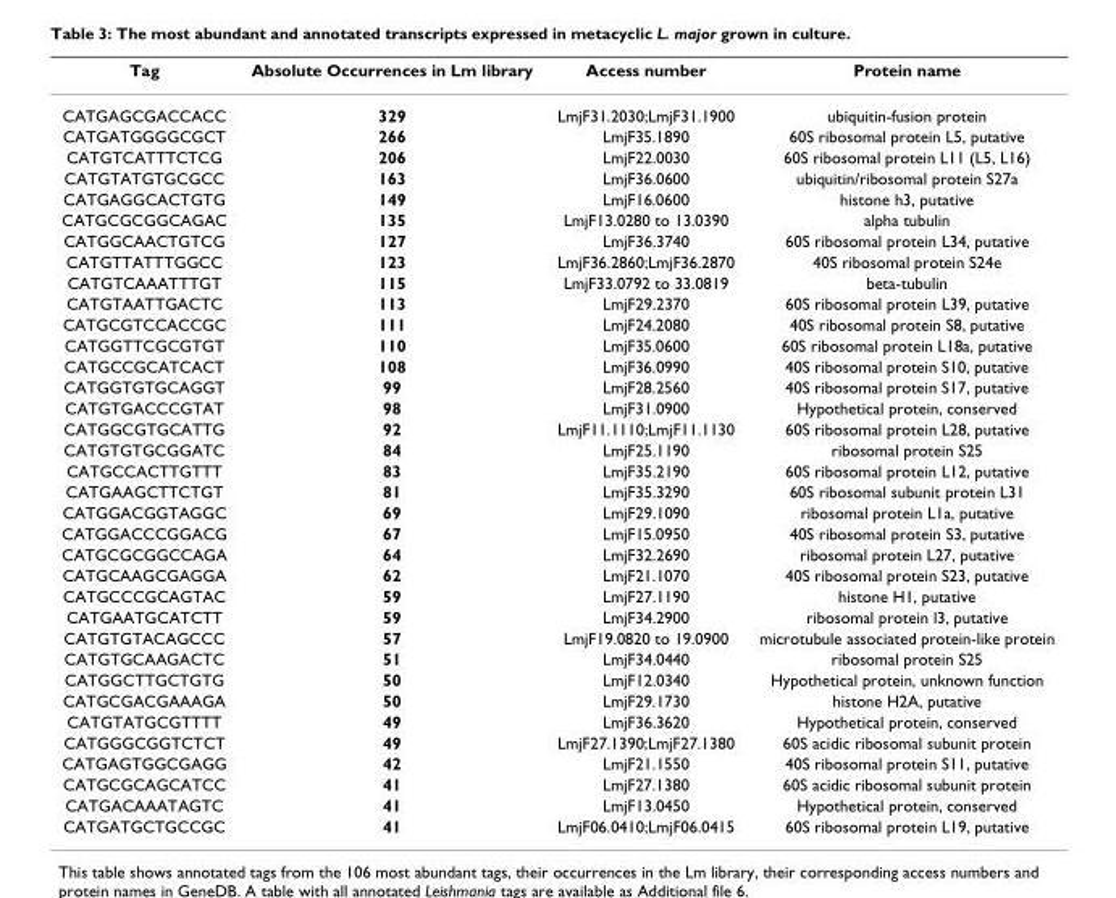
<table><thead><tr><td>Tag</td><td>Absolute Occurrences in Lm library</td><td>Access number</td><td>Protein name</td></tr></thead><tbody><tr><td>CATGAGCGACCACC</td><td>329</td><td>LmjF31.2030;LmjF31.1900</td><td>ubiquitin-fusion protein</td></tr><tr><td>CATGATGGGGCGCT</td><td>266</td><td>LmjF35.1890</td><td>60S ribosomal protein L5, putative</td></tr><tr><td>CATGTCATTTCTCG</td><td>206</td><td>LmjF22.0030</td><td>60S ribosomal protein L11 (L5, L16)</td></tr><tr><td>CATGTATGTGCGCC</td><td>163</td><td>LmjF36.0600</td><td>ubiquitin/ribosomal protein S27a</td></tr><tr><td>CATGAGGCACTGTG</td><td>149</td><td>LmjF16.0600</td><td>histone h3, putative</td></tr><tr><td>CATGCGCGGCAGAC</td><td>135</td><td>LmjF13.0280 to 13.0390</td><td>alpha tubulin</td></tr><tr><td>CATGGCAACTGTCG</td><td>127</td><td>LmjF36.3740</td><td>60S ribosomal protein L34, putative</td></tr><tr><td>CATGTTATTTGGCC</td><td>123</td><td>LmjF36.2860;LmjF36.2870</td><td>40S ribosomal protein S24e</td></tr><tr><td>CATGTCAAATTTGT</td><td>115</td><td>LmjF33.0792 to 33.0819</td><td>beta-tubulin</td></tr><tr><td>CATGTAATTGACTC</td><td>113</td><td>LmjF29.2370</td><td>60S ribosomal protein L39, putative</td></tr><tr><td>CATGCGTCCACCGC</td><td>111</td><td>LmjF24.2080</td><td>40S ribosomal protein S8, putative</td></tr><tr><td>CATGGTTCGCGTGT</td><td>110</td><td>LmjF35.0600</td><td>60S ribosomal protein L18a, putative</td></tr><tr><td>CATGCCGCATCACT</td><td>108</td><td>LmjF36.0990</td><td>40S ribosomal protein S10, putative</td></tr><tr><td>CATGGTGTGCAGGT</td><td>99</td><td>LmjF28.2560</td><td>40S ribosomal protein S17, putative</td></tr><tr><td>CATGTGACCCGTAT</td><td>98</td><td>LmjF31.0900</td><td>Hypothetical protein, conserved</td></tr><tr><td>CATGGCGTGCATTG</td><td>92</td><td>LmjF11.1110;LmjF11.1130</td><td>60S ribosomal protein L28, putative</td></tr><tr><td>CATGTGTGCGGATC</td><td>84</td><td>LmjF25.1190</td><td>ribosomal protein S25</td></tr><tr><td>CATGCCACTTGTTT</td><td>83</td><td>LmjF35.2190</td><td>60S ribosomal protein L12, putative</td></tr><tr><td>CATGAAGCTTCTGT</td><td>81</td><td>LmjF35.3290</td><td>60S ribosomal subunit protein L31</td></tr><tr><td>CATGGACGGTAGGC</td><td>69</td><td>LmjF29.1090</td><td>ribosomal protein L1a, putative</td></tr><tr><td>CATGGACCCGGACG</td><td>67</td><td>LmjF15.0950</td><td>40S ribosomal protein S3, putative</td></tr><tr><td>CATGCGCGGCCAGA</td><td>64</td><td>LmjF32.2690</td><td>ribosomal protein L27, putative</td></tr><tr><td>CATGCAAGCGAGGA</td><td>62</td><td>LmjF21.1070</td><td>40S ribosomal protein S23, putative</td></tr><tr><td>CATGCCCGCAGTAC</td><td>59</td><td>LmjF27.1190</td><td>histone H1, putative</td></tr><tr><td>CATGAATGCATCTT</td><td>59</td><td>LmjF34.2900</td><td>ribosomal protein l3, putative</td></tr><tr><td>CATGTGTACAGCCC</td><td>57</td><td>LmjF19.0820 to 19.0900</td><td>microtubule associated protein-like protein</td></tr><tr><td>CATGTGCAAGACTC</td><td>51</td><td>LmjF34.0440</td><td>ribosomal protein S25</td></tr><tr><td>CATGGCTTGCTGTG</td><td>50</td><td>LmjF12.0340</td><td>Hypothetical protein, unknown function</td></tr><tr><td>CATGCGACGAAAGA</td><td>50</td><td>LmjF29.1730</td><td>histone H2A, putative</td></tr><tr><td>CATGTATGCGTTTT</td><td>49</td><td>LmjF36.3620</td><td>Hypothetical protein, conserved</td></tr><tr><td>CATGGGCGGTCTCT</td><td>49</td><td>LmjF27.1390;LmjF27.1380</td><td>60S acidic ribosomal subunit protein</td></tr><tr><td>CATGAGTGGCGAGG</td><td>42</td><td>LmjF21.1550</td><td>40S ribosomal protein S11, putative</td></tr><tr><td>CATGCGCAGCATCC</td><td>41</td><td>LmjF27.1380</td><td>60S acidic ribosomal subunit protein</td></tr><tr><td>CATGACAAATAGTC</td><td>41</td><td>LmjF13.0450</td><td>Hypothetical protein, conserved</td></tr><tr><td>CATGATGCTGCCGC</td><td>41</td><td>LmjF06.0410;LmjF06.0415</td><td>60S ribosomal protein L19, putative</td></tr></tbody></table>